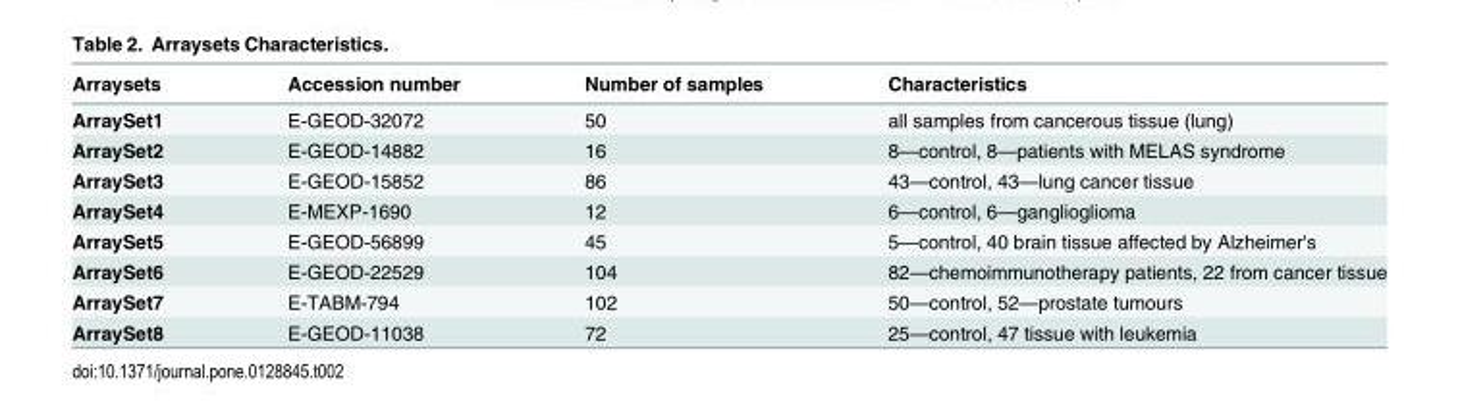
<table><thead><tr><td>Arraysets</td><td>Accession number</td><td>Number of samples</td><td>Characteristics</td></tr></thead><tbody><tr><td>ArraySet1</td><td>E-GEOD-32072</td><td>50</td><td>all samples from cancerous tissue (lung)</td></tr><tr><td>ArraySet2</td><td>E-GEOD-14882</td><td>16</td><td>8—control, 8—patients with MELAS syndrome</td></tr><tr><td>ArraySet3</td><td>E-GEOD-15852</td><td>86</td><td>43—control, 43—lung cancer tissue</td></tr><tr><td>ArraySet4</td><td>E-MEXP-1690</td><td>12</td><td>6—control, 6—ganglioglioma</td></tr><tr><td>ArraySet5</td><td>E-GEOD-56899</td><td>45</td><td>5—control, 40 brain tissue affected by Alzheimer&#x27;s</td></tr><tr><td>ArraySet6</td><td>E-GEOD-22529</td><td>104</td><td>82—chemoimmunotherapy patients, 22 from cancer tissue</td></tr><tr><td>ArraySet7</td><td>E-TABM-794</td><td>102</td><td>50—control, 52—prostate tumours</td></tr><tr><td>ArraySet8</td><td>E-GEOD-11038</td><td>72</td><td>25—control, 47 tissue with leukemia</td></tr></tbody></table>